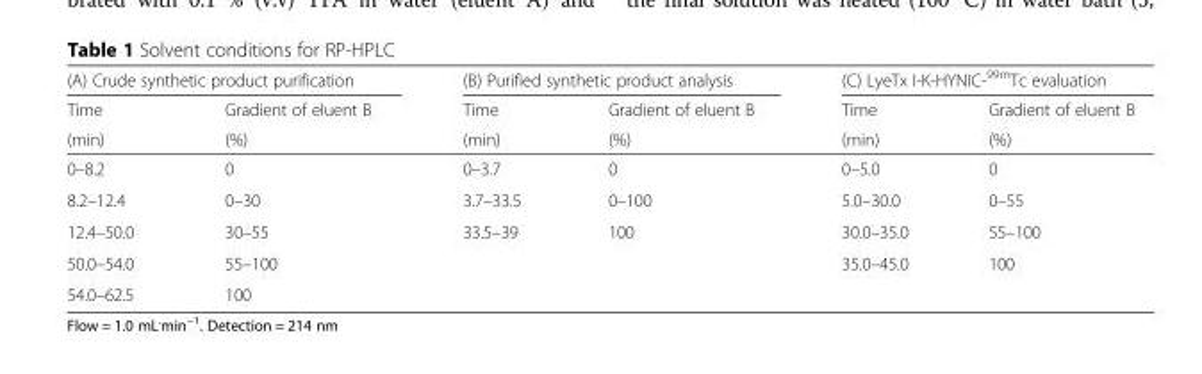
<table><thead><tr><td colspan="2">(A) Crude synthetic product purification</td><td colspan="2">(B) Purified synthetic product analysis</td><td colspan="2">(C) LyeTx I-K-HYNIC-<sup>99m</sup>Tc evaluation</td></tr><tr><td rowspan="2">Time (min)</td><td rowspan="2">Gradient of eluent B (%)</td><td rowspan="2">Time (min)</td><td rowspan="2">Gradient of eluent B (%)</td><td rowspan="2">Time (min)</td><td rowspan="2">Gradient of eluent B (%)</td></tr><tr></tr></thead><tbody><tr><td>0–8.2</td><td>0</td><td>0–3.7</td><td>0</td><td>0–5.0</td><td>0</td></tr><tr><td>8.2–12.4</td><td>0–30</td><td>3.7–33.5</td><td>0–100</td><td>5.0–30.0</td><td>0–55</td></tr><tr><td>12.4–50.0</td><td>30–55</td><td>33.5–39</td><td>100</td><td>30.0–35.0</td><td>55–100</td></tr><tr><td>50.0–54.0</td><td>55–100</td><td></td><td></td><td>35.0–45.0</td><td>100</td></tr><tr><td>54.0–62.5</td><td>100</td><td></td><td></td><td></td><td></td></tr></tbody></table>